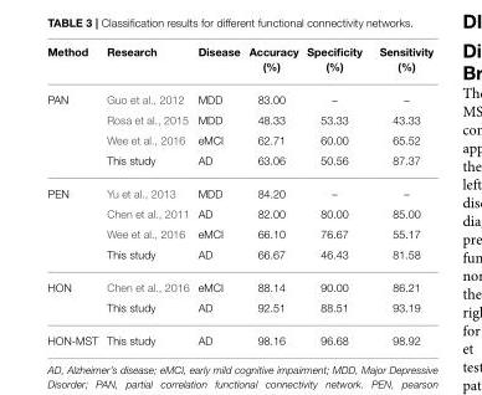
<table><thead><tr><td>Method</td><td>Research</td><td>Disease</td><td>Accuracy (%)</td><td>Specificity (%)</td><td>Sensitivity (%)</td></tr></thead><tbody><tr><td rowspan="4">PAN</td><td>Guo et al., 2012</td><td>MDD</td><td>83.00</td><td>–</td><td>–</td></tr><tr><td>Rosa et al., 2015</td><td>MDD</td><td>48.33</td><td>53.33</td><td>43.33</td></tr><tr><td>Wee et al., 2016</td><td>eMCI</td><td>62.71</td><td>60.00</td><td>65.52</td></tr><tr><td>This study</td><td>AD</td><td>63.06</td><td>50.56</td><td>87.37</td></tr><tr><td rowspan="4">PEN</td><td>Yu et al., 2013</td><td>MDD</td><td>84.20</td><td>–</td><td>–</td></tr><tr><td>Chen et al., 2011</td><td>AD</td><td>82.00</td><td>80.00</td><td>85.00</td></tr><tr><td>Wee et al., 2016</td><td>eMCI</td><td>66.10</td><td>76.67</td><td>55.17</td></tr><tr><td>This study</td><td>AD</td><td>66.67</td><td>46.43</td><td>81.58</td></tr><tr><td rowspan="2">HON</td><td>Chen et al., 2016</td><td>eMCI</td><td>88.14</td><td>90.00</td><td>86.21</td></tr><tr><td>This study</td><td>AD</td><td>92.51</td><td>88.51</td><td>93.19</td></tr><tr><td>HON-MST</td><td>This study</td><td>AD</td><td>98.16</td><td>96.68</td><td>98.92</td></tr></tbody></table>